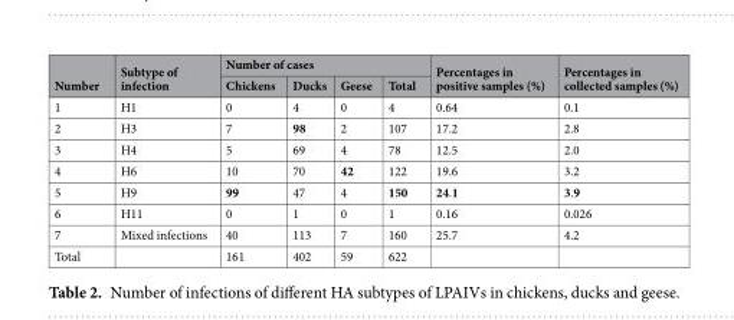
<table><thead><tr><td rowspan="2">Number</td><td rowspan="2">Subtype of infection</td><td colspan="4">Number of cases</td><td rowspan="2">Percentages in positive samples (%)</td><td rowspan="2">Percentages in collected samples (%)</td></tr><tr><td>Chickens</td><td>Ducks</td><td>Geese</td><td>Total</td></tr></thead><tbody><tr><td>1</td><td>H1</td><td>0</td><td>4</td><td>0</td><td>4</td><td>0.64</td><td>0.1</td></tr><tr><td>2</td><td>H3</td><td>7</td><td>98</td><td>2</td><td>107</td><td>17.2</td><td>2.8</td></tr><tr><td>3</td><td>H4</td><td>5</td><td>69</td><td>4</td><td>78</td><td>12.5</td><td>2.0</td></tr><tr><td>4</td><td>H6</td><td>10</td><td>70</td><td>42</td><td>122</td><td>19.6</td><td>3.2</td></tr><tr><td>5</td><td>H9</td><td>99</td><td>47</td><td>4</td><td>150</td><td>24.1</td><td>3.9</td></tr><tr><td>6</td><td>H11</td><td>0</td><td>1</td><td>0</td><td>1</td><td>0.16</td><td>0.026</td></tr><tr><td>7</td><td>Mixed infections</td><td>40</td><td>113</td><td>7</td><td>160</td><td>25.7</td><td>4.2</td></tr><tr><td>Total</td><td></td><td>161</td><td>402</td><td>59</td><td>622</td><td></td><td></td></tr></tbody></table>